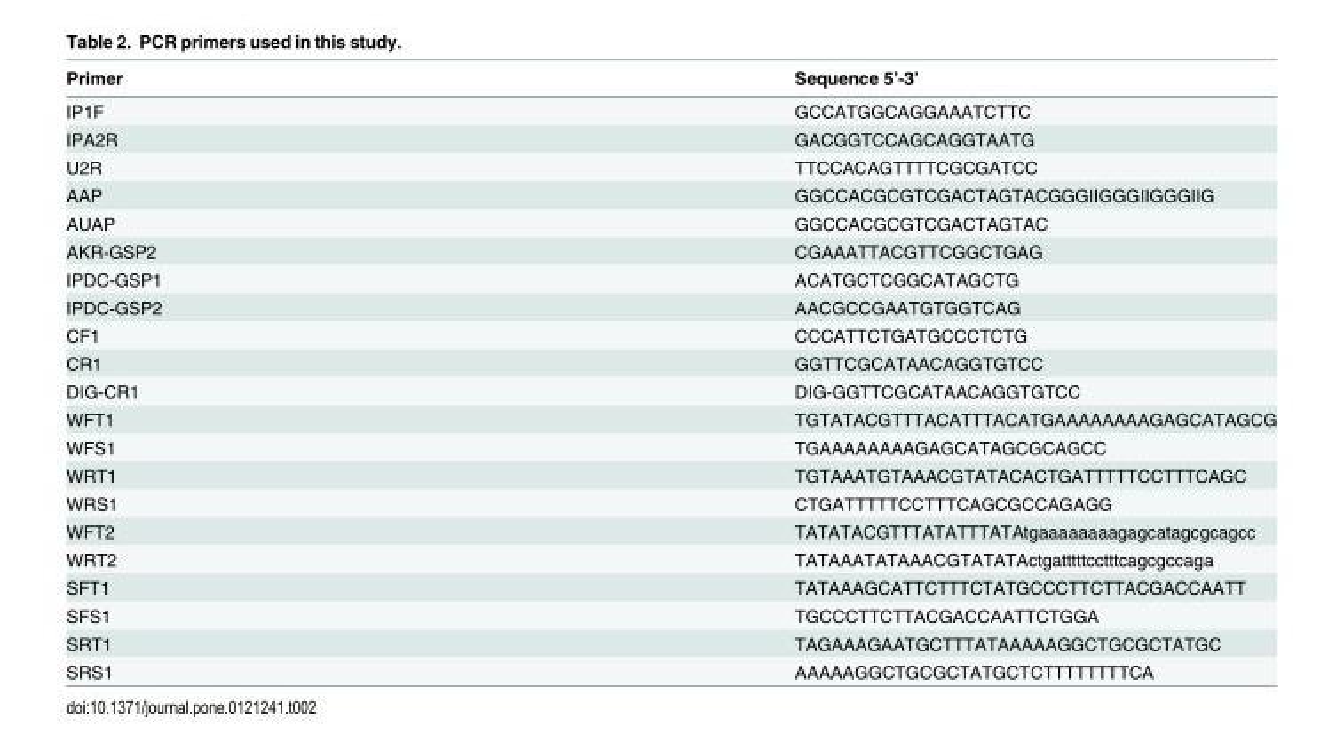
<table><thead><tr><td>Primer</td><td>Sequence 5’-3’</td></tr></thead><tbody><tr><td>IP1F</td><td>GCCATGGCAGGAAATCTTC</td></tr><tr><td>IPA2R</td><td>GACGGTCCAGCAGGTAATG</td></tr><tr><td>U2R</td><td>TTCCACAGTTTTCGCGATCC</td></tr><tr><td>AAP</td><td>GGCCACGCGTCGACTAGTACGGGIIGGGIIGGGIIG</td></tr><tr><td>AUAP</td><td>GGCCACGCGTCGACTAGTAC</td></tr><tr><td>AKR-GSP2</td><td>CGAAATTACGTTCGGCTGAG</td></tr><tr><td>IPDC-GSP1</td><td>ACATGCTCGGCATAGCTG</td></tr><tr><td>IPDC-GSP2</td><td>AACGCCGAATGTGGTCAG</td></tr><tr><td>CF1</td><td>CCCATTCTGATGCCCTCTG</td></tr><tr><td>CR1</td><td>GGTTCGCATAACAGGTGTCC</td></tr><tr><td>DIG-CR1</td><td>DIG-GGTTCGCATAACAGGTGTCC</td></tr><tr><td>WFT1</td><td>TGTATACGTTTACATTTACATGAAAAAAAAGAGCATAGCG</td></tr><tr><td>WFS1</td><td>TGAAAAAAAAGAGCATAGCGCAGCC</td></tr><tr><td>WRT1</td><td>TGTAAATGTAAACGTATACACTGATTTTTCCTTTCAGC</td></tr><tr><td>WRS1</td><td>CTGATTTTTCCTTTCAGCGCCAGAGG</td></tr><tr><td>WFT2</td><td>TATATACGTTTATATTTATAtgaaaaaaaagagcatagcgcagcc</td></tr><tr><td>WRT2</td><td>TATAAATATAAACGTATATActgatttttcctttcagcgccaga</td></tr><tr><td>SFT1</td><td>TATAAAGCATTCTTTCTATGCCCTTCTTACGACCAATT</td></tr><tr><td>SFS1</td><td>TGCCCTTCTTACGACCAATTCTGGA</td></tr><tr><td>SRT1</td><td>TAGAAAGAATGCTTTATAAAAAGGCTGCGCTATGC</td></tr><tr><td>SRS1</td><td>AAAAAGGCTGCGCTATGCTCTTTTTTTTCA</td></tr></tbody></table>